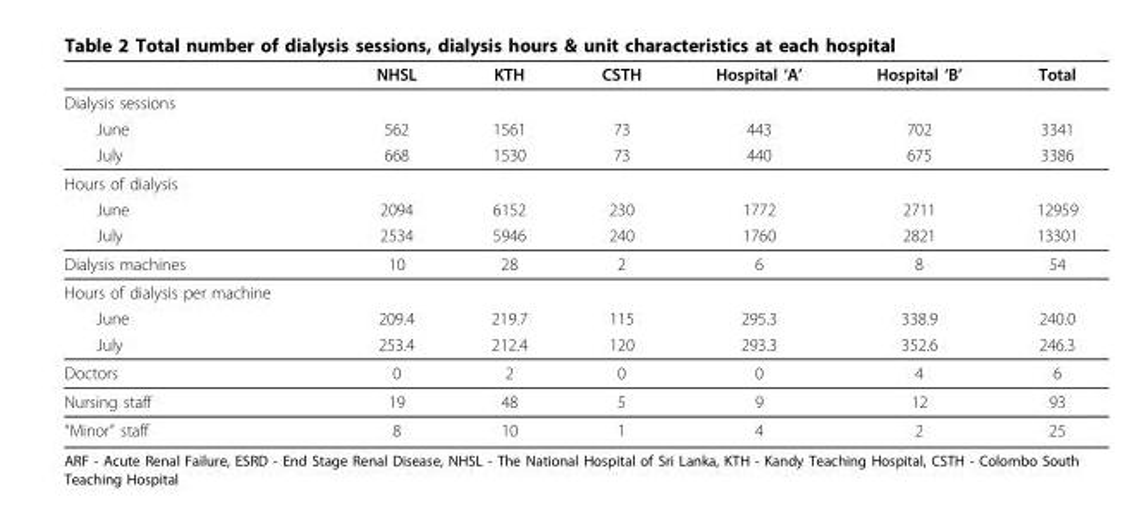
<table><thead><tr><td></td><td>NHSL</td><td>KTH</td><td>CSTH</td><td>Hospital ‘A’</td><td>Hospital ‘B’</td><td>Total</td></tr></thead><tbody><tr><td colspan="7">Dialysis sessions</td></tr><tr><td>June</td><td>562</td><td>1561</td><td>73</td><td>443</td><td>702</td><td>3341</td></tr><tr><td>July</td><td>668</td><td>1530</td><td>73</td><td>440</td><td>675</td><td>3386</td></tr><tr><td colspan="7">Hours of dialysis</td></tr><tr><td>June</td><td>2094</td><td>6152</td><td>230</td><td>1772</td><td>2711</td><td>12959</td></tr><tr><td>July</td><td>2534</td><td>5946</td><td>240</td><td>1760</td><td>2821</td><td>13301</td></tr><tr><td>Dialysis machines</td><td>10</td><td>28</td><td>2</td><td>6</td><td>8</td><td>54</td></tr><tr><td colspan="7">Hours of dialysis per machine</td></tr><tr><td>June</td><td>209.4</td><td>219.7</td><td>115</td><td>295.3</td><td>338.9</td><td>240.0</td></tr><tr><td>July</td><td>253.4</td><td>212.4</td><td>120</td><td>293.3</td><td>352.6</td><td>246.3</td></tr><tr><td>Doctors</td><td>0</td><td>2</td><td>0</td><td>0</td><td>4</td><td>6</td></tr><tr><td>Nursing staff</td><td>19</td><td>48</td><td>5</td><td>9</td><td>12</td><td>93</td></tr><tr><td>“Minor” staff</td><td>8</td><td>10</td><td>1</td><td>4</td><td>2</td><td>25</td></tr></tbody></table>